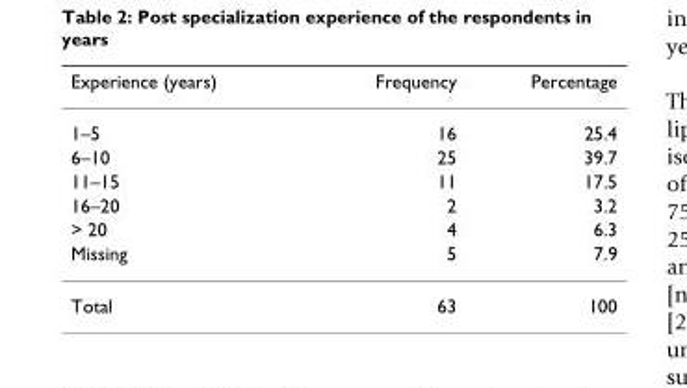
<table><thead><tr><td>Experience (years)</td><td>Frequency</td><td>Percentage</td></tr></thead><tbody><tr><td>1–5</td><td>16</td><td>25.4</td></tr><tr><td>6–10</td><td>25</td><td>39.7</td></tr><tr><td>11–15</td><td>11</td><td>17.5</td></tr><tr><td>16–20</td><td>2</td><td>3.2</td></tr><tr><td>&gt; 20</td><td>4</td><td>6.3</td></tr><tr><td>Missing</td><td>5</td><td>7.9</td></tr><tr><td>Total</td><td>63</td><td>100</td></tr></tbody></table>